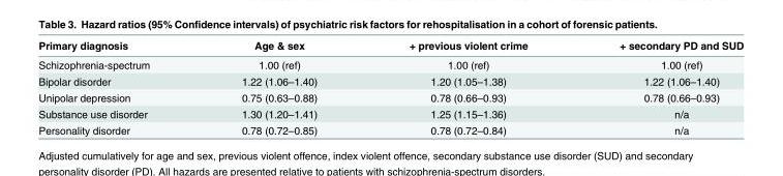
<table><thead><tr><td>Primary diagnosis</td><td>Age &amp; sex</td><td>+ previous violent crime</td><td>+ secondary PD and SUD</td></tr></thead><tbody><tr><td>Schizophrenia-spectrum</td><td>1.00 (ref)</td><td>1.00 (ref)</td><td>1.00 (ref)</td></tr><tr><td>Bipolar disorder</td><td>1.22 (1.06–1.40)</td><td>1.20 (1.05–1.38)</td><td>1.22 (1.06–1.40)</td></tr><tr><td>Unipolar depression</td><td>0.75 (0.63–0.88)</td><td>0.78 (0.66–0.93)</td><td>0.78 (0.66–0.93)</td></tr><tr><td>Substance use disorder</td><td>1.30 (1.20–1.41)</td><td>1.25 (1.15–1.36)</td><td>n/a</td></tr><tr><td>Personality disorder</td><td>0.78 (0.72–0.85)</td><td>0.78 (0.72–0.84)</td><td>n/a</td></tr></tbody></table>